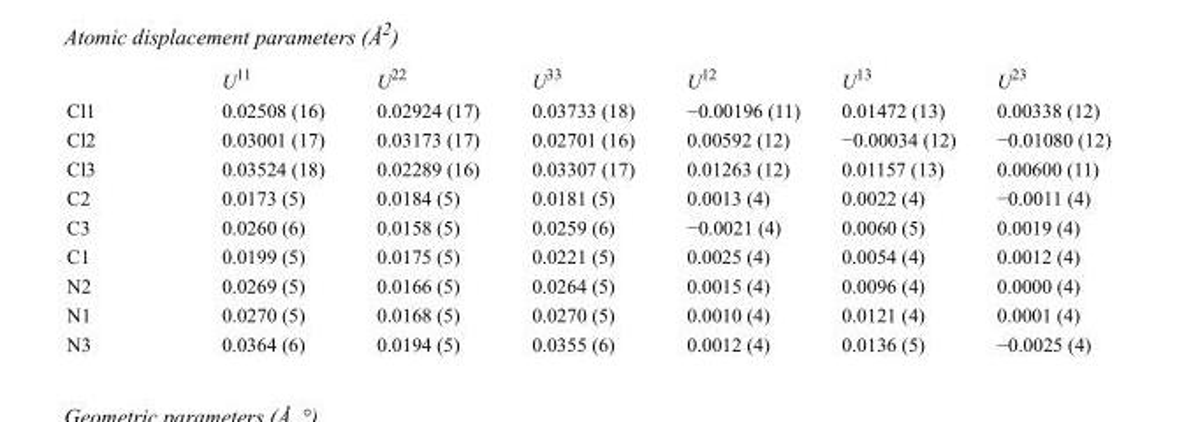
<table><thead><tr><td></td><td>U<sup>11</sup></td><td>U<sup>22</sup></td><td>U<sup>33</sup></td><td>U<sup>12</sup></td><td>U<sup>13</sup></td><td>U<sup>23</sup></td></tr></thead><tbody><tr><td>Cl1</td><td>0.02508 (16)</td><td>0.02924 (17)</td><td>0.03733 (18)</td><td>−0.00196 (11)</td><td>0.01472 (13)</td><td>0.00338 (12)</td></tr><tr><td>Cl2</td><td>0.03001 (17)</td><td>0.03173 (17)</td><td>0.02701 (16)</td><td>0.00592 (12)</td><td>−0.00034 (12)</td><td>−0.01080 (12)</td></tr><tr><td>Cl3</td><td>0.03524 (18)</td><td>0.02289 (16)</td><td>0.03307 (17)</td><td>0.01263 (12)</td><td>0.01157 (13)</td><td>0.00600 (11)</td></tr><tr><td>C2</td><td>0.0173 (5)</td><td>0.0184 (5)</td><td>0.0181 (5)</td><td>0.0013 (4)</td><td>0.0022 (4)</td><td>−0.0011 (4)</td></tr><tr><td>C3</td><td>0.0260 (6)</td><td>0.0158 (5)</td><td>0.0259 (6)</td><td>−0.0021 (4)</td><td>0.0060 (5)</td><td>0.0019 (4)</td></tr><tr><td>C1</td><td>0.0199 (5)</td><td>0.0175 (5)</td><td>0.0221 (5)</td><td>0.0025 (4)</td><td>0.0054 (4)</td><td>0.0012 (4)</td></tr><tr><td>N2</td><td>0.0269 (5)</td><td>0.0166 (5)</td><td>0.0264 (5)</td><td>0.0015 (4)</td><td>0.0096 (4)</td><td>0.0000 (4)</td></tr><tr><td>N1</td><td>0.0270 (5)</td><td>0.0168 (5)</td><td>0.0270 (5)</td><td>0.0010 (4)</td><td>0.0121 (4)</td><td>0.0001 (4)</td></tr><tr><td>N3</td><td>0.0364 (6)</td><td>0.0194 (5)</td><td>0.0355 (6)</td><td>0.0012 (4)</td><td>0.0136 (5)</td><td>−0.0025 (4)</td></tr></tbody></table>